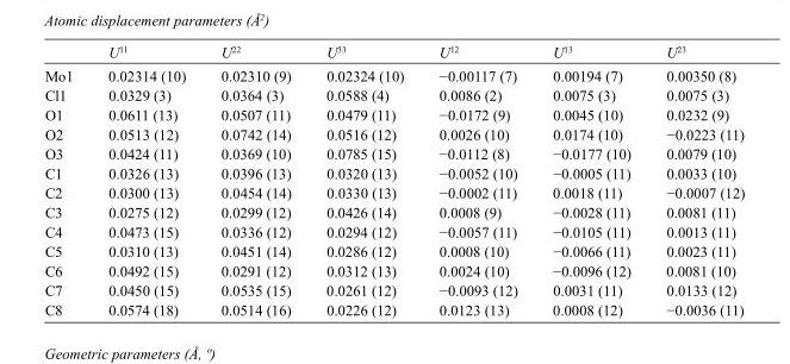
<table><thead><tr><td></td><td>U<sup>11</sup></td><td>U<sup>22</sup></td><td>U<sup>33</sup></td><td>U<sup>12</sup></td><td>U<sup>13</sup></td><td>U<sup>23</sup></td></tr></thead><tbody><tr><td>Mo1</td><td>0.02314 (10)</td><td>0.02310 (9)</td><td>0.02324 (10)</td><td>−0.00117 (7)</td><td>0.00194 (7)</td><td>0.00350 (8)</td></tr><tr><td>Cl1</td><td>0.0329 (3)</td><td>0.0364 (3)</td><td>0.0588 (4)</td><td>0.0086 (2)</td><td>0.0075 (3)</td><td>0.0075 (3)</td></tr><tr><td>O1</td><td>0.0611 (13)</td><td>0.0507 (11)</td><td>0.0479 (11)</td><td>−0.0172 (9)</td><td>0.0045 (10)</td><td>0.0232 (9)</td></tr><tr><td>O2</td><td>0.0513 (12)</td><td>0.0742 (14)</td><td>0.0516 (12)</td><td>0.0026 (10)</td><td>0.0174 (10)</td><td>−0.0223 (11)</td></tr><tr><td>O3</td><td>0.0424 (11)</td><td>0.0369 (10)</td><td>0.0785 (15)</td><td>−0.0112 (8)</td><td>−0.0177 (10)</td><td>0.0079 (10)</td></tr><tr><td>C1</td><td>0.0326 (13)</td><td>0.0396 (13)</td><td>0.0320 (13)</td><td>−0.0052 (10)</td><td>−0.0005 (11)</td><td>0.0033 (10)</td></tr><tr><td>C2</td><td>0.0300 (13)</td><td>0.0454 (14)</td><td>0.0330 (13)</td><td>−0.0002 (11)</td><td>0.0018 (11)</td><td>−0.0007 (12)</td></tr><tr><td>C3</td><td>0.0275 (12)</td><td>0.0299 (12)</td><td>0.0426 (14)</td><td>0.0008 (9)</td><td>−0.0028 (11)</td><td>0.0081 (11)</td></tr><tr><td>C4</td><td>0.0473 (15)</td><td>0.0336 (12)</td><td>0.0294 (12)</td><td>−0.0057 (11)</td><td>−0.0105 (11)</td><td>0.0013 (11)</td></tr><tr><td>C5</td><td>0.0310 (13)</td><td>0.0451 (14)</td><td>0.0286 (12)</td><td>0.0008 (10)</td><td>−0.0066 (11)</td><td>0.0023 (11)</td></tr><tr><td>C6</td><td>0.0492 (15)</td><td>0.0291 (12)</td><td>0.0312 (13)</td><td>0.0024 (10)</td><td>−0.0096 (12)</td><td>0.0081 (10)</td></tr><tr><td>C7</td><td>0.0450 (15)</td><td>0.0535 (15)</td><td>0.0261 (12)</td><td>−0.0093 (12)</td><td>0.0031 (11)</td><td>0.0133 (12)</td></tr><tr><td>C8</td><td>0.0574 (18)</td><td>0.0514 (16)</td><td>0.0226 (12)</td><td>0.0123 (13)</td><td>0.0008 (12)</td><td>−0.0036 (11)</td></tr></tbody></table>